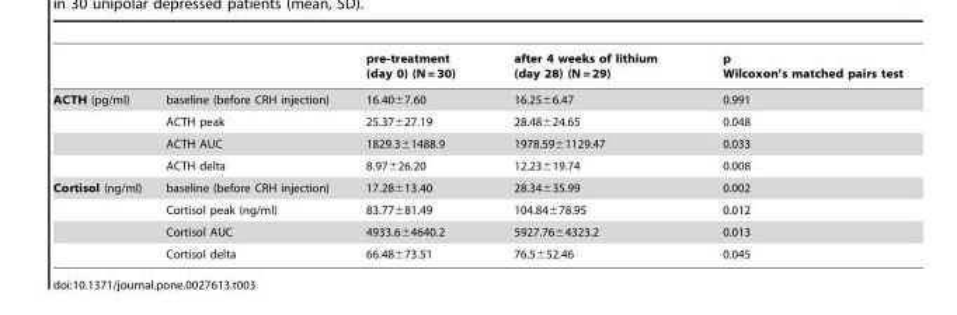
<table><thead><tr><td></td><td></td><td>pre-treatment (day 0) (N = 30)</td><td>after 4 weeks of lithium (day 28) (N = 29)</td><td>p Wilcoxon’s matched pairs test</td></tr></thead><tbody><tr><td rowspan="4">ACTH (pg/ml)</td><td>baseline (before CRH injection)</td><td>16.40±7.60</td><td>16.25±6.47</td><td>0.991</td></tr><tr><td>ACTH peak</td><td>25.37±27.19</td><td>28.48±24.65</td><td>0.048</td></tr><tr><td>ACTH AUC</td><td>1829.3±1488.9</td><td>1978.59±1129.47</td><td>0.033</td></tr><tr><td>ACTH delta</td><td>8.97±26.20</td><td>12.23±19.74</td><td>0.008</td></tr><tr><td rowspan="4">Cortisol (ng/ml)</td><td>baseline (before CRH injection)</td><td>17.28±13.40</td><td>28.34±35.99</td><td>0.002</td></tr><tr><td>Cortisol peak (ng/ml)</td><td>83.77±81.49</td><td>104.84±78.95</td><td>0.012</td></tr><tr><td>Cortisol AUC</td><td>4933.6±4640.2</td><td>5927.76±4323.2</td><td>0.013</td></tr><tr><td>Cortisol delta</td><td>66.48±73.51</td><td>76.5±52.46</td><td>0.045</td></tr></tbody></table>